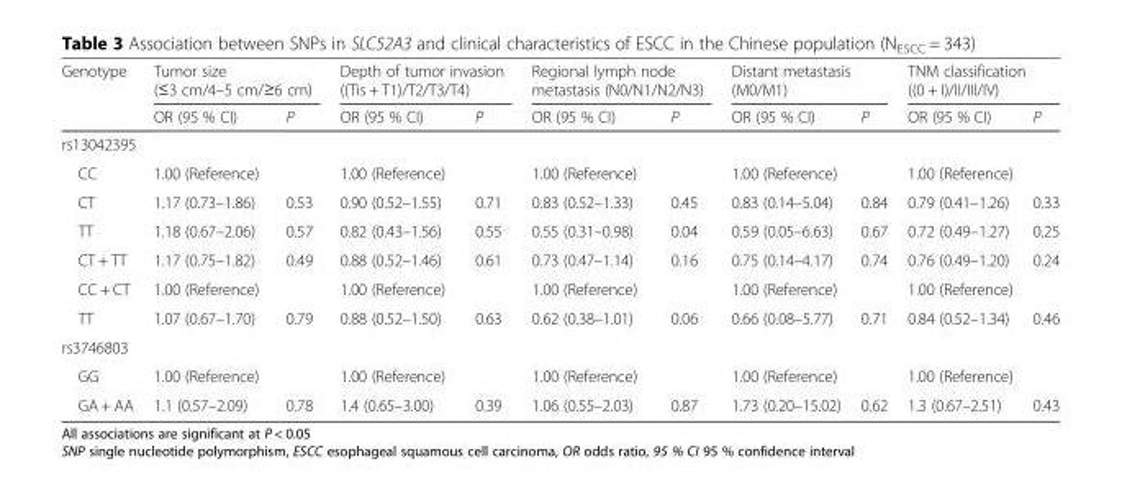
<table><thead><tr><td rowspan="2">Genotype</td><td colspan="2">Tumor size (≤3 cm/4–5 cm/≥6 cm)</td><td colspan="2">Depth of tumor invasion ((Tis + T1)/T2/T3/T4)</td><td colspan="2">Regional lymph node metastasis (N0/N1/N2/N3)</td><td colspan="2">Distant metastasis (M0/M1)</td><td colspan="2">TNM classification ((0 + I)/II/III/IV)</td></tr><tr><td>OR (95 % CI)</td><td>P</td><td>OR (95 % CI)</td><td>P</td><td>OR (95 % CI)</td><td>P</td><td>OR (95 % CI)</td><td>P</td><td>OR (95 % CI)</td><td>P</td></tr></thead><tbody><tr><td colspan="11">rs13042395</td></tr><tr><td>CC</td><td>1.00 (Reference)</td><td></td><td>1.00 (Reference)</td><td></td><td>1.00 (Reference)</td><td></td><td>1.00 (Reference)</td><td></td><td>1.00 (Reference)</td><td></td></tr><tr><td>CT</td><td>1.17 (0.73–1.86)</td><td>0.53</td><td>0.90 (0.52–1.55)</td><td>0.71</td><td>0.83 (0.52–1.33)</td><td>0.45</td><td>0.83 (0.14–5.04)</td><td>0.84</td><td>0.79 (0.41–1.26)</td><td>0.33</td></tr><tr><td>TT</td><td>1.18 (0.67–2.06)</td><td>0.57</td><td>0.82 (0.43–1.56)</td><td>0.55</td><td>0.55 (0.31–0.98)</td><td>0.04</td><td>0.59 (0.05–6.63)</td><td>0.67</td><td>0.72 (0.49–1.27)</td><td>0.25</td></tr><tr><td>CT + TT</td><td>1.17 (0.75–1.82)</td><td>0.49</td><td>0.88 (0.52–1.46)</td><td>0.61</td><td>0.73 (0.47–1.14)</td><td>0.16</td><td>0.75 (0.14–4.17)</td><td>0.74</td><td>0.76 (0.49–1.20)</td><td>0.24</td></tr><tr><td>CC + CT</td><td>1.00 (Reference)</td><td></td><td>1.00 (Reference)</td><td></td><td>1.00 (Reference)</td><td></td><td>1.00 (Reference)</td><td></td><td>1.00 (Reference)</td><td></td></tr><tr><td>TT</td><td>1.07 (0.67–1.70)</td><td>0.79</td><td>0.88 (0.52–1.50)</td><td>0.63</td><td>0.62 (0.38–1.01)</td><td>0.06</td><td>0.66 (0.08–5.77)</td><td>0.71</td><td>0.84 (0.52–1.34)</td><td>0.46</td></tr><tr><td colspan="11">rs3746803</td></tr><tr><td>GG</td><td>1.00 (Reference)</td><td></td><td>1.00 (Reference)</td><td></td><td>1.00 (Reference)</td><td></td><td>1.00 (Reference)</td><td></td><td>1.00 (Reference)</td><td></td></tr><tr><td>GA + AA</td><td>1.1 (0.57–2.09)</td><td>0.78</td><td>1.4 (0.65–3.00)</td><td>0.39</td><td>1.06 (0.55–2.03)</td><td>0.87</td><td>1.73 (0.20–15.02)</td><td>0.62</td><td>1.3 (0.67–2.51)</td><td>0.43</td></tr></tbody></table>